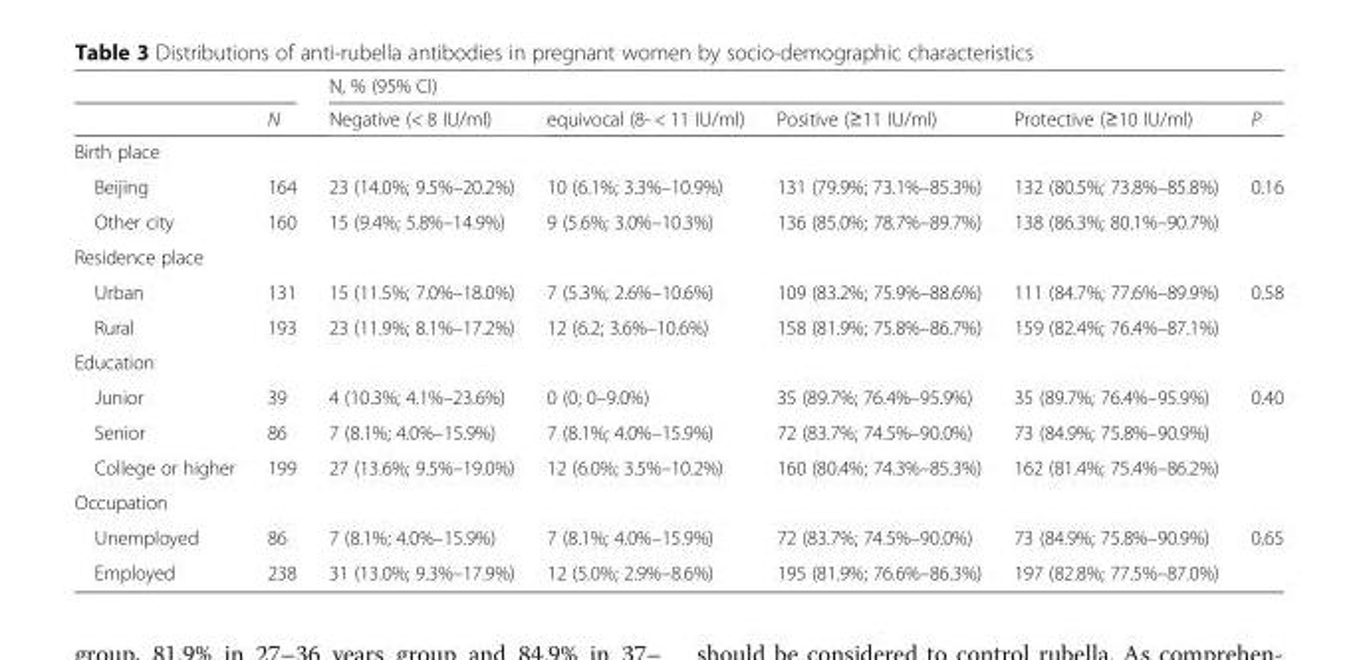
<table><thead><tr><td rowspan="2"></td><td rowspan="2">N</td><td colspan="5">N, % (95% CI)</td></tr><tr><td>Negative (&lt; 8 IU/ml)</td><td>equivocal (8- &lt; 11 IU/ml)</td><td>Positive (≥11 IU/ml)</td><td>Protective (≥10 IU/ml)</td><td>P</td></tr></thead><tbody><tr><td colspan="7">Birth place</td></tr><tr><td>Beijing</td><td>164</td><td>23 (14.0%; 9.5%–20.2%)</td><td>10 (6.1%; 3.3%–10.9%)</td><td>131 (79.9%; 73.1%–85.3%)</td><td>132 (80.5%; 73.8%–85.8%)</td><td>0.16</td></tr><tr><td>Other city</td><td>160</td><td>15 (9.4%; 5.8%–14.9%)</td><td>9 (5.6%; 3.0%–10.3%)</td><td>136 (85.0%; 78.7%–89.7%)</td><td>138 (86.3%; 80.1%–90.7%)</td><td></td></tr><tr><td colspan="7">Residence place</td></tr><tr><td>Urban</td><td>131</td><td>15 (11.5%; 7.0%–18.0%)</td><td>7 (5.3%; 2.6%–10.6%)</td><td>109 (83.2%; 75.9%–88.6%)</td><td>111 (84.7%; 77.6%–89.9%)</td><td>0.58</td></tr><tr><td>Rural</td><td>193</td><td>23 (11.9%; 8.1%–17.2%)</td><td>12 (6.2; 3.6%–10.6%)</td><td>158 (81.9%; 75.8%–86.7%)</td><td>159 (82.4%; 76.4%–87.1%)</td><td></td></tr><tr><td colspan="7">Education</td></tr><tr><td>Junior</td><td>39</td><td>4 (10.3%; 4.1%–23.6%)</td><td>0 (0; 0–9.0%)</td><td>35 (89.7%; 76.4%–95.9%)</td><td>35 (89.7%; 76.4%–95.9%)</td><td>0.40</td></tr><tr><td>Senior</td><td>86</td><td>7 (8.1%; 4.0%–15.9%)</td><td>7 (8.1%; 4.0%–15.9%)</td><td>72 (83.7%; 74.5%–90.0%)</td><td>73 (84.9%; 75.8%–90.9%)</td><td></td></tr><tr><td>College or higher</td><td>199</td><td>27 (13.6%; 9.5%–19.0%)</td><td>12 (6.0%; 3.5%–10.2%)</td><td>160 (80.4%; 74.3%–85.3%)</td><td>162 (81.4%; 75.4%–86.2%)</td><td></td></tr><tr><td colspan="7">Occupation</td></tr><tr><td>Unemployed</td><td>86</td><td>7 (8.1%; 4.0%–15.9%)</td><td>7 (8.1%; 4.0%–15.9%)</td><td>72 (83.7%; 74.5%–90.0%)</td><td>73 (84.9%; 75.8%–90.9%)</td><td>0.65</td></tr><tr><td>Employed</td><td>238</td><td>31 (13.0%; 9.3%–17.9%)</td><td>12 (5.0%; 2.9%–8.6%)</td><td>195 (81.9%; 76.6%–86.3%)</td><td>197 (82.8%; 77.5%–87.0%)</td><td></td></tr></tbody></table>